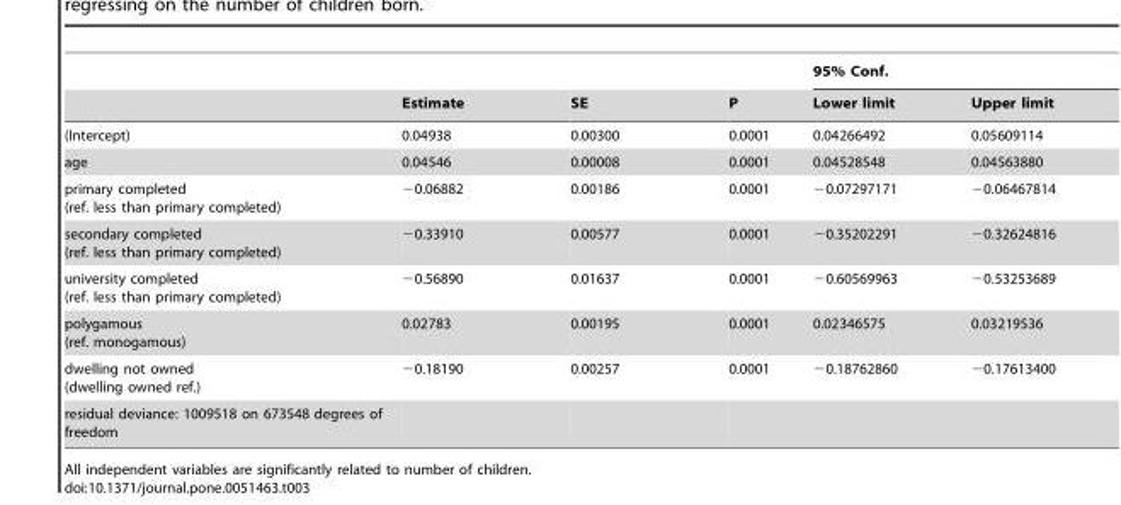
<table><thead><tr><td rowspan="2"></td><td rowspan="2">Estimate</td><td rowspan="2">SE</td><td rowspan="2">P</td><td colspan="2">95% Conf.</td></tr><tr><td>Lower limit</td><td>Upper limit</td></tr></thead><tbody><tr><td>(Intercept)</td><td>0.04938</td><td>0.00300</td><td>0.0001</td><td>0.04266492</td><td>0.05609114</td></tr><tr><td>age</td><td>0.04546</td><td>0.00008</td><td>0.0001</td><td>0.04528548</td><td>0.04563880</td></tr><tr><td>primary completed (ref. less than primary completed)</td><td>−0.06882</td><td>0.00186</td><td>0.0001</td><td>−0.07297171</td><td>−0.06467814</td></tr><tr><td>secondary completed (ref. less than primary completed)</td><td>−0.33910</td><td>0.00577</td><td>0.0001</td><td>−0.35202291</td><td>−0.32624816</td></tr><tr><td>university completed (ref. less than primary completed)</td><td>−0.56890</td><td>0.01637</td><td>0.0001</td><td>−0.60569963</td><td>−0.53253689</td></tr><tr><td>polygamous (ref. monogamous)</td><td>0.02783</td><td>0.00195</td><td>0.0001</td><td>0.02346575</td><td>0.03219536</td></tr><tr><td>dwelling not owned (dwelling owned ref.)</td><td>−0.18190</td><td>0.00257</td><td>0.0001</td><td>−0.18762860</td><td>−0.17613400</td></tr><tr><td>residual deviance: 1009518 on 673548 degrees of freedom</td><td></td><td></td><td></td><td></td><td></td></tr></tbody></table>